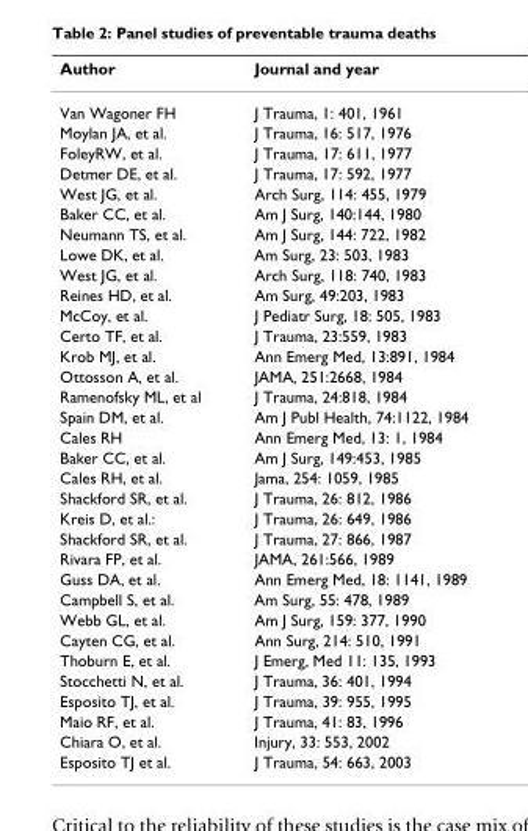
<table><thead><tr><td>Author</td><td>Journal and year</td></tr></thead><tbody><tr><td>Van Wagoner FH</td><td>J Trauma, 1: 401, 1961</td></tr><tr><td>Moylan JA, et al.</td><td>J Trauma, 16: 517, 1976</td></tr><tr><td>FoleyRW, et al.</td><td>J Trauma, 17: 611, 1977</td></tr><tr><td>Detmer DE, et al.</td><td>J Trauma, 17: 592, 1977</td></tr><tr><td>West JG, et al.</td><td>Arch Surg, 114: 455, 1979</td></tr><tr><td>Baker CC, et al.</td><td>Am J Surg, 140:144, 1980</td></tr><tr><td>Neumann TS, et al.</td><td>Am J Surg, 144: 722, 1982</td></tr><tr><td>Lowe DK, et al.</td><td>Am Surg, 23: 503, 1983</td></tr><tr><td>West JG, et al.</td><td>Arch Surg, 118: 740, 1983</td></tr><tr><td>Reines HD, et al.</td><td>Am Surg, 49:203, 1983</td></tr><tr><td>McCoy, et al.</td><td>J Pediatr Surg, 18: 505, 1983</td></tr><tr><td>Certo TF, et al.</td><td>J Trauma, 23:559, 1983</td></tr><tr><td>Krob MJ, et al.</td><td>Ann Emerg Med, 13:891, 1984</td></tr><tr><td>Ottosson A, et al.</td><td>JAMA, 251:2668, 1984</td></tr><tr><td>Ramenofsky ML, et al</td><td>J Trauma, 24:818, 1984</td></tr><tr><td>Spain DM, et al.</td><td>Am J Publ Health, 74:1122, 1984</td></tr><tr><td>Cales RH</td><td>Ann Emerg Med, 13: 1, 1984</td></tr><tr><td>Baker CC, et al.</td><td>Am J Surg, 149:453, 1985</td></tr><tr><td>Cales RH, et al.</td><td>Jama, 254: 1059, 1985</td></tr><tr><td>Shackford SR, et al.</td><td>J Trauma, 26: 812, 1986</td></tr><tr><td>Kreis D, et al.:</td><td>J Trauma, 26: 649, 1986</td></tr><tr><td>Shackford SR, et al.</td><td>J Trauma, 27: 866, 1987</td></tr><tr><td>Rivara FP, et al.</td><td>JAMA, 261:566, 1989</td></tr><tr><td>Guss DA, et al.</td><td>Ann Emerg Med, 18: 1141, 1989</td></tr><tr><td>Campbell S, et al.</td><td>Am Surg, 55: 478, 1989</td></tr><tr><td>Webb GL, et al.</td><td>Am J Surg, 159: 377, 1990</td></tr><tr><td>Cayten CG, et al.</td><td>Ann Surg, 214: 510, 1991</td></tr><tr><td>Thoburn E, et al.</td><td>J Emerg, Med 11: 135, 1993</td></tr><tr><td>Stocchetti N, et al.</td><td>J Trauma, 36: 401, 1994</td></tr><tr><td>Esposito TJ, et al.</td><td>J Trauma, 39: 955, 1995</td></tr><tr><td>Maio RF, et al.</td><td>J Trauma, 41: 83, 1996</td></tr><tr><td>Chiara O, et al.</td><td>Injury, 33: 553, 2002</td></tr><tr><td>Esposito TJ et al.</td><td>J Trauma, 54: 663, 2003</td></tr></tbody></table>